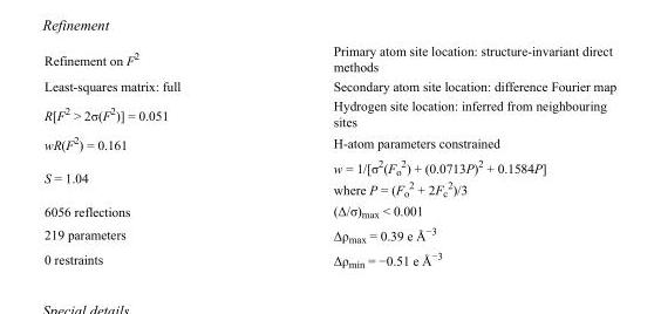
<table><tbody><tr><td>Refinement on F<sup>2</sup></td><td>Primary atom site location: structure-invariant direct methods</td></tr><tr><td>Least-squares matrix: full</td><td>Secondary atom site location: difference Fourier map</td></tr><tr><td>R[F<sup>2</sup> &gt; 2σ(F<sup>2</sup>)] = 0.051</td><td>Hydrogen site location: inferred from neighbouring sites</td></tr><tr><td>wR(F<sup>2</sup>) = 0.161</td><td>H-atom parameters constrained</td></tr><tr><td>S = 1.04</td><td>w = 1/[σ<sup>2</sup>(F<sub>o</sub> <sup>2</sup>) + (0.0713P)<sup>2</sup> + 0.1584P] where P = (F<sub>o</sub> <sup>2</sup> + 2F<sub>c</sub> <sup>2</sup>)/3</td></tr><tr><td>6056 reflections</td><td>(Δ/σ)<sub>max</sub> &lt; 0.001</td></tr><tr><td>219 parameters</td><td>Δρ<sub>max</sub> = 0.39 e Å<sup>−3</sup></td></tr><tr><td>0 restraints</td><td>Δρ<sub>min</sub> = −0.51 e Å<sup>−3</sup></td></tr></tbody></table>